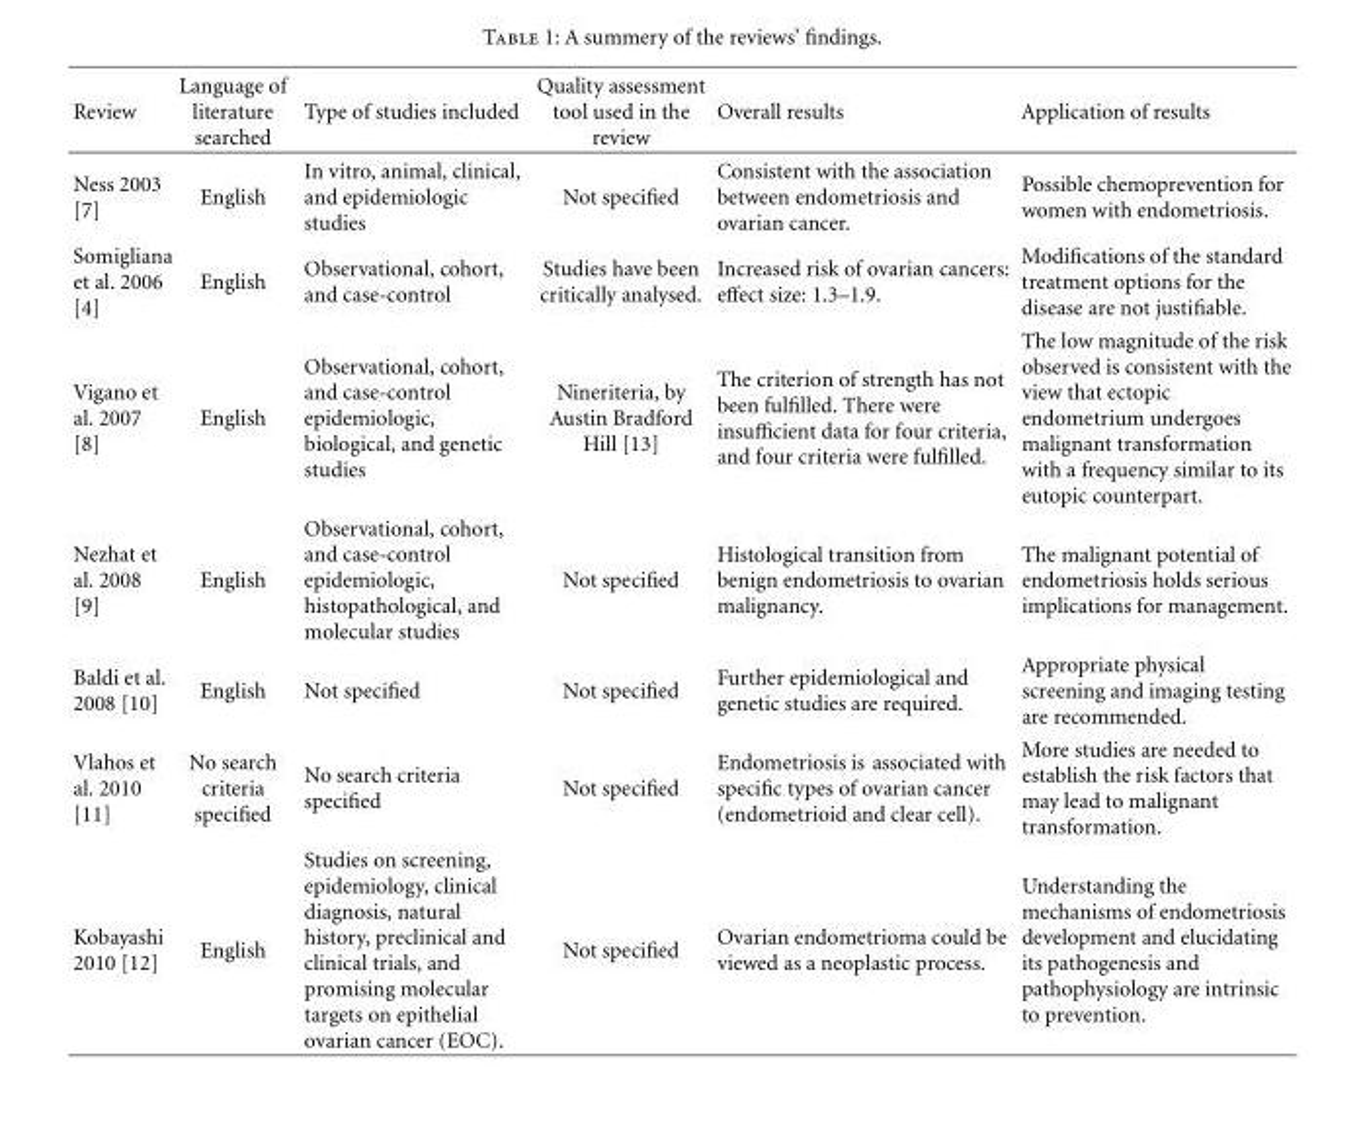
<table><thead><tr><td>Review</td><td>Language of literature searched</td><td>Type of studies included</td><td>Quality assessment tool used in the review</td><td>Overall results</td><td>Application of results</td></tr></thead><tbody><tr><td>Ness 2003 [7]</td><td>English</td><td>In vitro, animal, clinical, and epidemiologic studies</td><td>Not specified</td><td>Consistent with the association between endometriosis and ovarian cancer.</td><td>Possible chemoprevention for women with endometriosis.</td></tr><tr><td>Somigliana et al. 2006 [4]</td><td>English</td><td>Observational, cohort, and case-control</td><td>Studies have been critically analysed.</td><td>Increased risk of ovarian cancers: effect size: 1.3–1.9.</td><td>Modifications of the standard treatment options for the disease are not justifiable.</td></tr><tr><td>Vigano et al. 2007 [8]</td><td>English</td><td>Observational, cohort, and case-control epidemiologic, biological, and genetic studies</td><td>Nineriteria, by Austin Bradford Hill [13]</td><td>The criterion of strength has not been fulfilled. There were insufficient data for four criteria, and four criteria were fulfilled.</td><td>The low magnitude of the risk observed is consistent with the view that ectopic endometrium undergoes malignant transformation with a frequency similar to its eutopic counterpart.</td></tr><tr><td>Nezhat et al. 2008 [9]</td><td>English</td><td>Observational, cohort, and case-control epidemiologic, histopathological, and molecular studies</td><td>Not specified</td><td>Histological transition from benign endometriosis to ovarian malignancy.</td><td>The malignant potential of endometriosis holds serious implications for management.</td></tr><tr><td>Baldi et al. 2008 [10]</td><td>English</td><td>Not specified</td><td>Not specified</td><td>Further epidemiological and genetic studies are required.</td><td>Appropriate physical screening and imaging testing are recommended.</td></tr><tr><td>Vlahos et al. 2010 [11]</td><td>No search criteria specified</td><td>No search criteria specified</td><td>Not specified</td><td>Endometriosis is associated with specific types of ovarian cancer (endometrioid and clear cell).</td><td>More studies are needed to establish the risk factors that may lead to malignant transformation.</td></tr><tr><td>Kobayashi 2010 [12]</td><td>English</td><td>Studies on screening, epidemiology, clinical diagnosis, natural history, preclinical and clinical trials, and promising molecular targets on epithelial ovarian cancer (EOC).</td><td>Not specified</td><td>Ovarian endometrioma could be viewed as a neoplastic process.</td><td>Understanding the mechanisms of endometriosis development and elucidating its pathogenesis and pathophysiology are intrinsic to prevention.</td></tr></tbody></table>